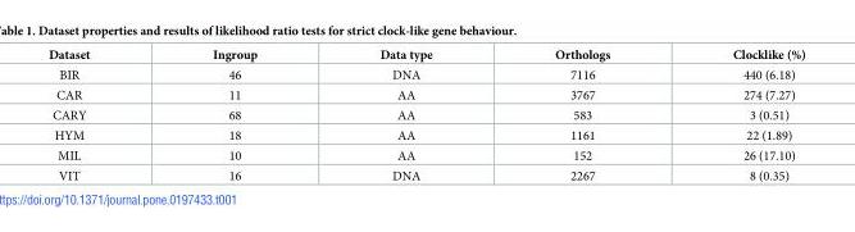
<table><thead><tr><td>Dataset</td><td>Ingroup</td><td>Data type</td><td>Orthologs</td><td>Clocklike (%)</td></tr></thead><tbody><tr><td>BIR</td><td>46</td><td>DNA</td><td>7116</td><td>440 (6.18)</td></tr><tr><td>CAR</td><td>11</td><td>AA</td><td>3767</td><td>274 (7.27)</td></tr><tr><td>CARY</td><td>68</td><td>AA</td><td>583</td><td>3 (0.51)</td></tr><tr><td>HYM</td><td>18</td><td>AA</td><td>1161</td><td>22 (1.89)</td></tr><tr><td>MIL</td><td>10</td><td>AA</td><td>152</td><td>26 (17.10)</td></tr><tr><td>VIT</td><td>16</td><td>DNA</td><td>2267</td><td>8 (0.35)</td></tr></tbody></table>